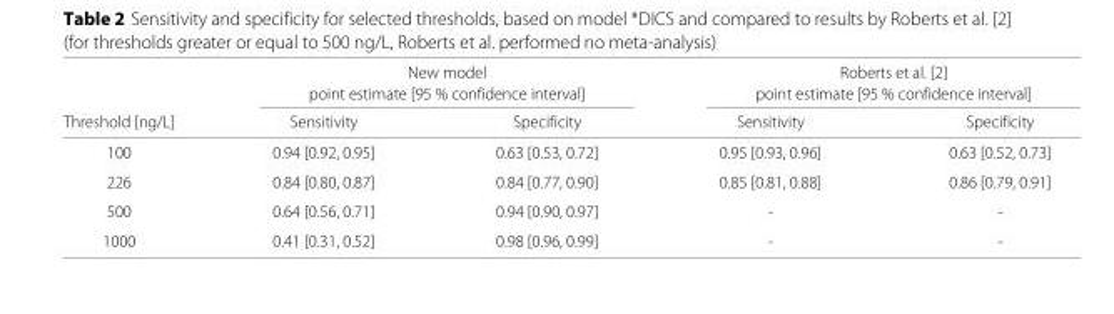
<table><thead><tr><td rowspan="3">Threshold [ng/L]</td><td rowspan="2" colspan="2">New model point estimate [95 % confidence interval]</td><td rowspan="2" colspan="2">Roberts et al. [2] point estimate [95 % confidence interval]</td></tr><tr></tr><tr><td>Sensitivity</td><td>Specificity</td><td>Sensitivity</td><td>Specificity</td></tr></thead><tbody><tr><td>100</td><td>0.94 [0.92, 0.95]</td><td>0.63 [0.53, 0.72]</td><td>0.95 [0.93, 0.96]</td><td>0.63 [0.52, 0.73]</td></tr><tr><td>226</td><td>0.84 [0.80, 0.87]</td><td>0.84 [0.77, 0.90]</td><td>0.85 [0.81, 0.88]</td><td>0.86 [0.79, 0.91]</td></tr><tr><td>500</td><td>0.64 [0.56, 0.71]</td><td>0.94 [0.90, 0.97]</td><td>-</td><td>-</td></tr><tr><td>1000</td><td>0.41 [0.31, 0.52]</td><td>0.98 [0.96, 0.99]</td><td>-</td><td>-</td></tr></tbody></table>